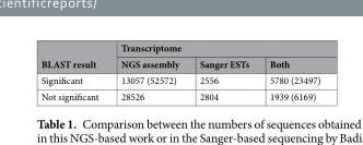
<table><thead><tr><td rowspan="2">BLAST result</td><td colspan="3">Transcriptome</td></tr><tr><td>NGS assembly</td><td>Sanger ESTs</td><td>Both</td></tr></thead><tbody><tr><td>Significant</td><td>13057 (52572)</td><td>2556</td><td>5780 (23497)</td></tr><tr><td>Not significant</td><td>28526</td><td>2804</td><td>1939 (6169)</td></tr></tbody></table>